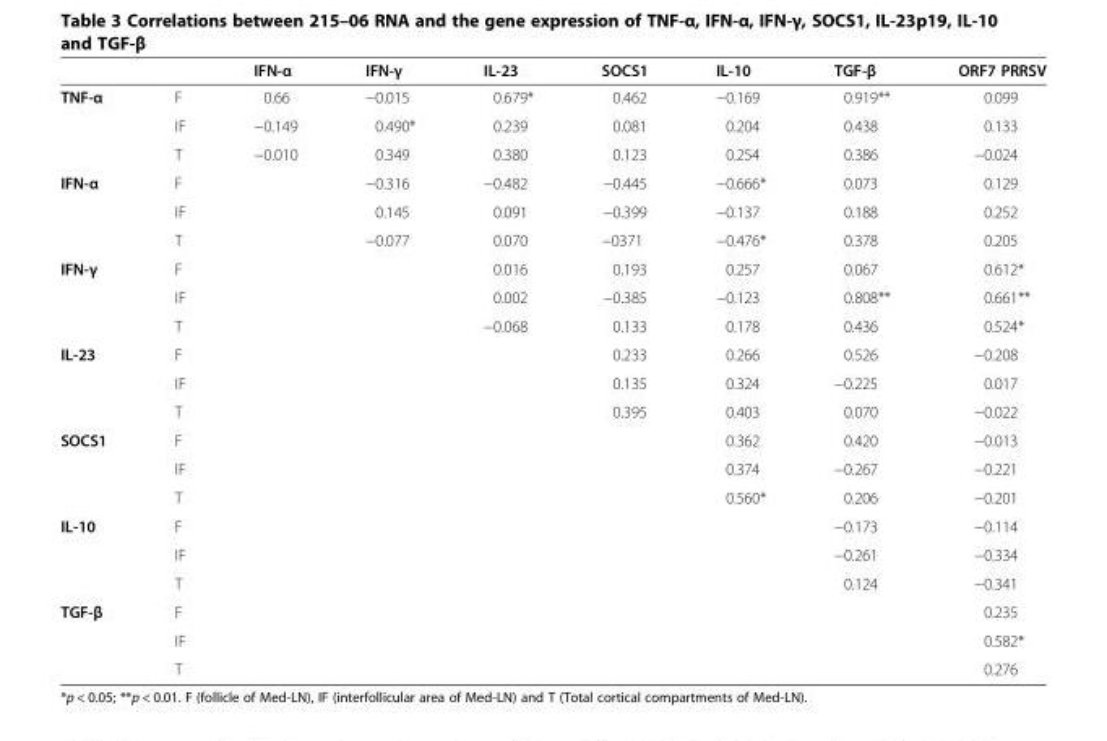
<table><thead><tr><td></td><td></td><td>IFN-α</td><td>IFN-γ</td><td>IL-23</td><td>SOCS1</td><td>IL-10</td><td>TGF-β</td><td>ORF7 PRRSV</td></tr></thead><tbody><tr><td rowspan="3">TNF-α</td><td>F</td><td>0.66</td><td>−0.015</td><td>0.679*</td><td>0.462</td><td>−0.169</td><td>0.919**</td><td>0.099</td></tr><tr><td>IF</td><td>−0.149</td><td>0.490*</td><td>0.239</td><td>0.081</td><td>0.204</td><td>0.438</td><td>0.133</td></tr><tr><td>T</td><td>−0.010</td><td>0.349</td><td>0.380</td><td>0.123</td><td>0.254</td><td>0.386</td><td>−0.024</td></tr><tr><td rowspan="3">IFN-α</td><td>F</td><td></td><td>−0.316</td><td>−0.482</td><td>−0.445</td><td>−0.666*</td><td>0.073</td><td>0.129</td></tr><tr><td>IF</td><td></td><td>0.145</td><td>0.091</td><td>−0.399</td><td>−0.137</td><td>0.188</td><td>0.252</td></tr><tr><td>T</td><td></td><td>−0.077</td><td>0.070</td><td>−0371</td><td>−0.476*</td><td>0.378</td><td>0.205</td></tr><tr><td rowspan="3">IFN-γ</td><td>F</td><td></td><td></td><td>0.016</td><td>0.193</td><td>0.257</td><td>0.067</td><td>0.612*</td></tr><tr><td>IF</td><td></td><td></td><td>0.002</td><td>−0.385</td><td>−0.123</td><td>0.808**</td><td>0.661**</td></tr><tr><td>T</td><td></td><td></td><td>−0.068</td><td>0.133</td><td>0.178</td><td>0.436</td><td>0.524*</td></tr><tr><td rowspan="3">IL-23</td><td>F</td><td></td><td></td><td></td><td>0.233</td><td>0.266</td><td>0.526</td><td>−0.208</td></tr><tr><td>IF</td><td></td><td></td><td></td><td>0.135</td><td>0.324</td><td>−0.225</td><td>0.017</td></tr><tr><td>T</td><td></td><td></td><td></td><td>0.395</td><td>0.403</td><td>0.070</td><td>−0.022</td></tr><tr><td rowspan="3">SOCS1</td><td>F</td><td></td><td></td><td></td><td></td><td>0.362</td><td>0.420</td><td>−0.013</td></tr><tr><td>IF</td><td></td><td></td><td></td><td></td><td>0.374</td><td>−0.267</td><td>−0.221</td></tr><tr><td>T</td><td></td><td></td><td></td><td></td><td>0.560*</td><td>0.206</td><td>−0.201</td></tr><tr><td rowspan="3">IL-10</td><td>F</td><td></td><td></td><td></td><td></td><td></td><td>−0.173</td><td>−0.114</td></tr><tr><td>IF</td><td></td><td></td><td></td><td></td><td></td><td>−0.261</td><td>−0.334</td></tr><tr><td>T</td><td></td><td></td><td></td><td></td><td></td><td>0.124</td><td>−0.341</td></tr><tr><td rowspan="3">TGF-β</td><td>F</td><td></td><td></td><td></td><td></td><td></td><td></td><td>0.235</td></tr><tr><td>IF</td><td></td><td></td><td></td><td></td><td></td><td></td><td>0.582*</td></tr><tr><td>T</td><td></td><td></td><td></td><td></td><td></td><td></td><td>0.276</td></tr></tbody></table>